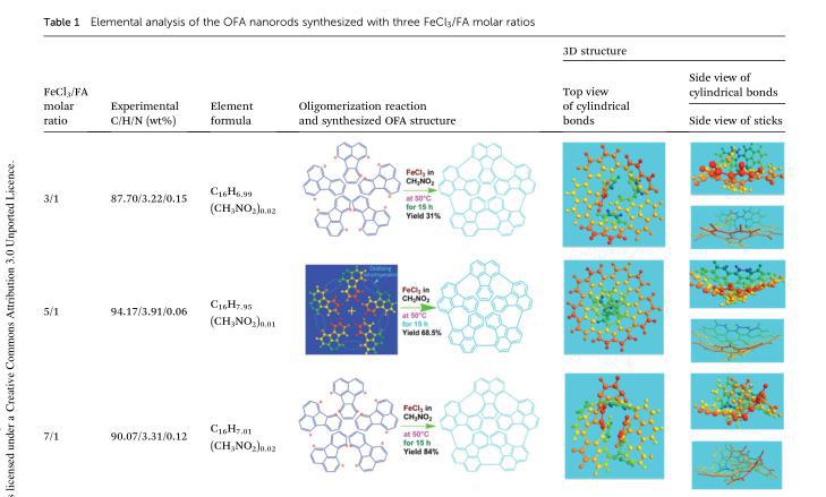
<table><thead><tr><td rowspan="3">FeCl<sub>3</sub>/FA molar ratio</td><td rowspan="3">Experimental C/H/N (wt%)</td><td rowspan="3">Element formula</td><td rowspan="3">Oligomerization reaction and synthesized OFA structure</td><td colspan="2">3D structure</td></tr><tr><td rowspan="2">Top view of cylindrical bonds</td><td rowspan="2">Side view of cylindrical bonds Side view of sticks</td></tr><tr></tr></thead><tbody><tr><td rowspan="2">3/1</td><td rowspan="2">87.70/3.22/0.15</td><td>C<sub>16</sub>H<sub>6.99</sub></td><td rowspan="2"></td><td rowspan="2"></td><td></td></tr><tr><td>(CH<sub>3</sub>NO<sub>2</sub>)<sub>0.02</sub></td><td></td></tr><tr><td rowspan="2">5/1</td><td rowspan="2">94.17/3.91/0.06</td><td>C<sub>16</sub>H<sub>7.95</sub></td><td rowspan="2"></td><td rowspan="2"></td><td></td></tr><tr><td>(CH<sub>3</sub>NO<sub>2</sub>)<sub>0.01</sub></td><td></td></tr><tr><td rowspan="2">7/1</td><td rowspan="2">90.07/3.31/0.12</td><td>C<sub>16</sub>H<sub>7.01</sub></td><td rowspan="2"></td><td rowspan="2"></td><td></td></tr><tr><td>(CH<sub>3</sub>NO<sub>2</sub>)<sub>0.02</sub></td><td></td></tr></tbody></table>